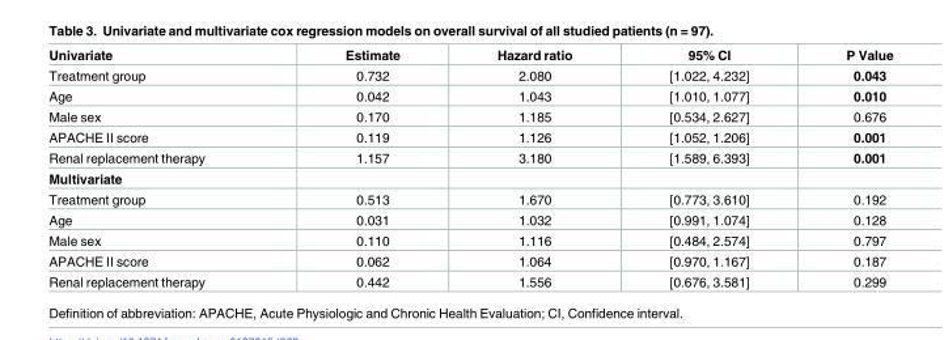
<table><thead><tr><td>Univariate</td><td>Estimate</td><td>Hazard ratio</td><td>95% CI</td><td>P Value</td></tr></thead><tbody><tr><td>Treatment group</td><td>0.732</td><td>2.080</td><td>[1.022, 4.232]</td><td>0.043</td></tr><tr><td>Age</td><td>0.042</td><td>1.043</td><td>[1.010, 1.077]</td><td>0.010</td></tr><tr><td>Male sex</td><td>0.170</td><td>1.185</td><td>[0.534, 2.627]</td><td>0.676</td></tr><tr><td>APACHE II score</td><td>0.119</td><td>1.126</td><td>[1.052, 1.206]</td><td>0.001</td></tr><tr><td>Renal replacement therapy</td><td>1.157</td><td>3.180</td><td>[1.589, 6.393]</td><td>0.001</td></tr><tr><td colspan="5">Multivariate</td></tr><tr><td>Treatment group</td><td>0.513</td><td>1.670</td><td>[0.773, 3.610]</td><td>0.192</td></tr><tr><td>Age</td><td>0.031</td><td>1.032</td><td>[0.991, 1.074]</td><td>0.128</td></tr><tr><td>Male sex</td><td>0.110</td><td>1.116</td><td>[0.484, 2.574]</td><td>0.797</td></tr><tr><td>APACHE II score</td><td>0.062</td><td>1.064</td><td>[0.970, 1.167]</td><td>0.187</td></tr><tr><td>Renal replacement therapy</td><td>0.442</td><td>1.556</td><td>[0.676, 3.581]</td><td>0.299</td></tr></tbody></table>